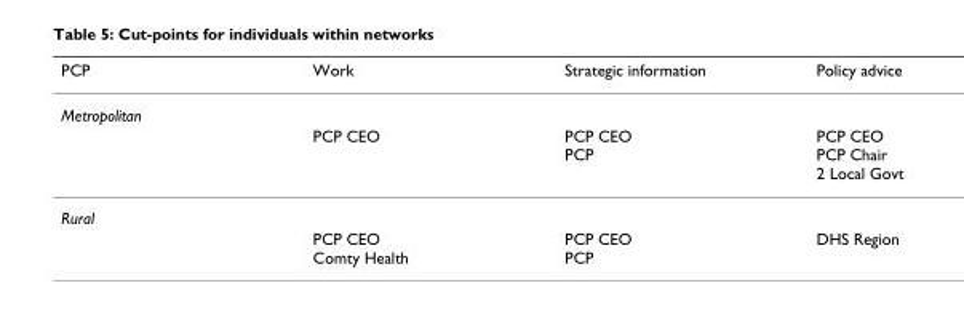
<table><thead><tr><td>PCP</td><td>Work</td><td>Strategic information</td><td>Policy advice</td></tr></thead><tbody><tr><td colspan="4">Metropolitan</td></tr><tr><td></td><td>PCP CEO</td><td>PCP CEO PCP</td><td>PCP CEO PCP Chair 2 Local Govt</td></tr><tr><td colspan="4">Rural</td></tr><tr><td></td><td>PCP CEO Comty Health</td><td>PCP CEO PCP</td><td>DHS Region</td></tr></tbody></table>